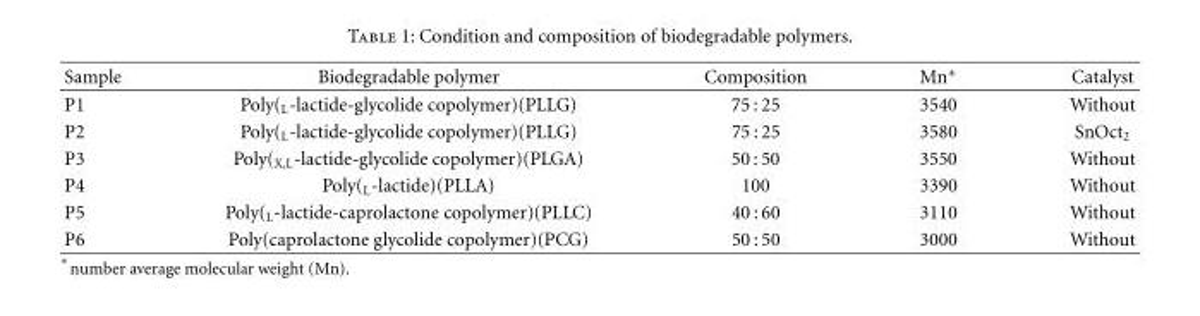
<table><thead><tr><td>Sample</td><td>Biodegradable polymer</td><td>Composition</td><td>Mn∗</td><td>Catalyst</td></tr></thead><tbody><tr><td>P1</td><td>Poly(<sub>L</sub>-lactide-glycolide copolymer)(PLLG)</td><td>75 : 25</td><td>3540</td><td>Without</td></tr><tr><td>P2</td><td>Poly(<sub>L</sub>-lactide-glycolide copolymer)(PLLG)</td><td>75 : 25</td><td>3580</td><td>SnOct<sub>2</sub></td></tr><tr><td>P3</td><td>Poly(<sub>X,L</sub>-lactide-glycolide copolymer)(PLGA)</td><td>50 : 50</td><td>3550</td><td>Without</td></tr><tr><td>P4</td><td>Poly(<sub>L</sub>-lactide)(PLLA)</td><td>100</td><td>3390</td><td>Without</td></tr><tr><td>P5</td><td>Poly(<sub>L</sub>-lactide-caprolactone copolymer)(PLLC)</td><td>40 : 60</td><td>3110</td><td>Without</td></tr><tr><td>P6</td><td>Poly(caprolactone glycolide copolymer)(PCG)</td><td>50 : 50</td><td>3000</td><td>Without</td></tr></tbody></table>